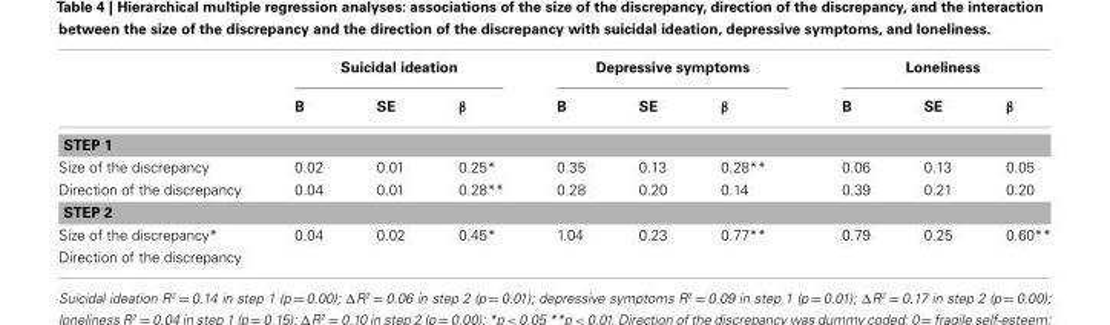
<table><thead><tr><td rowspan="2"></td><td colspan="3">Suicidal ideation</td><td colspan="3">Depressive symptoms</td><td colspan="3">Loneliness</td></tr><tr><td>B</td><td>SE</td><td>β</td><td>B</td><td>SE</td><td>β</td><td>B</td><td>SE</td><td>β</td></tr></thead><tbody><tr><td colspan="10">STEP 1</td></tr><tr><td>Size of the discrepancy</td><td>0.02</td><td>0.01</td><td>0.25*</td><td>0.35</td><td>0.13</td><td>0.28**</td><td>0.06</td><td>0.13</td><td>0.05</td></tr><tr><td>Direction of the discrepancy</td><td>0.04</td><td>0.01</td><td>0.28**</td><td>0.28</td><td>0.20</td><td>0.14</td><td>0.39</td><td>0.21</td><td>0.20</td></tr><tr><td colspan="10">STEP 2</td></tr><tr><td>Size of the discrepancy*</td><td>0.04</td><td>0.02</td><td>0.45*</td><td>1.04</td><td>0.23</td><td>0.77**</td><td>0.79</td><td>0.25</td><td>0.60**</td></tr><tr><td>Direction of the discrepancy</td><td></td><td></td><td></td><td></td><td></td><td></td><td></td><td></td><td></td></tr></tbody></table>